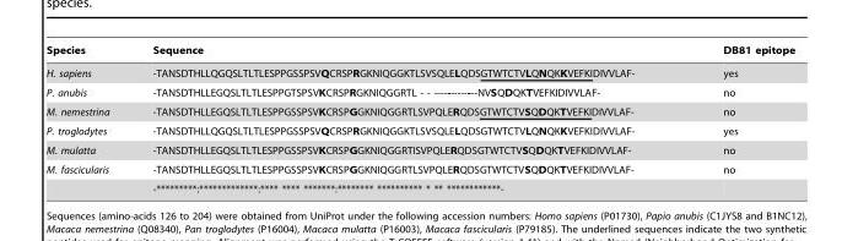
<table><thead><tr><td>Species</td><td>Sequence</td><td>DB81 epitope</td></tr></thead><tbody><tr><td>H. sapiens</td><td>-TANSDTHLLQGQSLTLTLESPPGSSPSVQCRSPRGKNIQGGKTLSVSQLELQDSGTWTCTVLQNQKKVEFKIDIVVLAF-</td><td>yes</td></tr><tr><td>P. anubis</td><td>-TANSDTHLLEGQSLTLTLESPPGTSPSVKCRSPRGKNIQGGRTL - - -------------NVSQDQKTVEFKIDIVVLAF-</td><td>no</td></tr><tr><td>M. nemestrina</td><td>-TANSDTHLLEGQSLTLTLESPPGSSPSVKCRSPGGKNIQGGRTLSVPQLERQDSGTWTCTVSQDQKTVEFKIDIVVLAF-</td><td>no</td></tr><tr><td>P. troglodytes</td><td>-TANSDTHLLQGQSLTLTLESPPGSSPSVQCRSPRGKNIQGGKTLSVSQLELQDSGTWTCTVLQNQKKVEFKIDIVVLAF-</td><td>yes</td></tr><tr><td>M. mulatta</td><td>-TANSDTHLLEGQSLTLTLESPPGSSPSVKCRSPGGKNIQGGRTISVPQLERQDSGTWTCTVSQDQKTVEFKIDIVVLAF-</td><td>no</td></tr><tr><td rowspan="2">M. fascicularis</td><td>-TANSDTHLLEGQSLTLTLESPPGSSPSVKCRSPGGKNIQGGRTLSVPQLERQDSGTWTCTVSQDQKTVEFKIDIVVLAF-</td><td>no</td></tr><tr><td>-*********:*************:**** **** *******:******** ********** * ** ************-</td><td></td></tr></tbody></table>